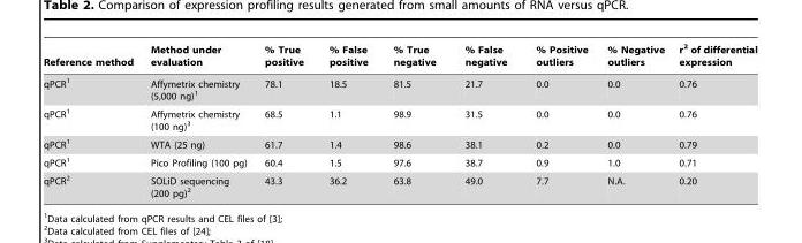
<table><thead><tr><td>Reference method</td><td>Method under evaluation</td><td>% True positive</td><td>% False positive</td><td>% True negative</td><td>% False negative</td><td>% Positive outliers</td><td>% Negative outliers</td><td>r<sup>2</sup> of differential expression</td></tr></thead><tbody><tr><td>qPCR<sup>1</sup></td><td>Affymetrix chemistry (5,000 ng)<sup>1</sup></td><td>78.1</td><td>18.5</td><td>81.5</td><td>21.7</td><td>0.0</td><td>0.0</td><td>0.76</td></tr><tr><td>qPCR<sup>1</sup></td><td>Affymetrix chemistry (100 ng)<sup>3</sup></td><td>68.5</td><td>1.1</td><td>98.9</td><td>31.5</td><td>0.0</td><td>0.0</td><td>0.76</td></tr><tr><td>qPCR<sup>1</sup></td><td>WTA (25 ng)</td><td>61.7</td><td>1.4</td><td>98.6</td><td>38.1</td><td>0.2</td><td>0.0</td><td>0.79</td></tr><tr><td>qPCR<sup>1</sup></td><td>Pico Profiling (100 pg)</td><td>60.4</td><td>1.5</td><td>97.6</td><td>38.7</td><td>0.9</td><td>1.0</td><td>0.71</td></tr><tr><td>qPCR<sup>2</sup></td><td>SOLiD sequencing (200 pg)<sup>2</sup></td><td>43.3</td><td>36.2</td><td>63.8</td><td>49.0</td><td>7.7</td><td>N.A.</td><td>0.20</td></tr></tbody></table>